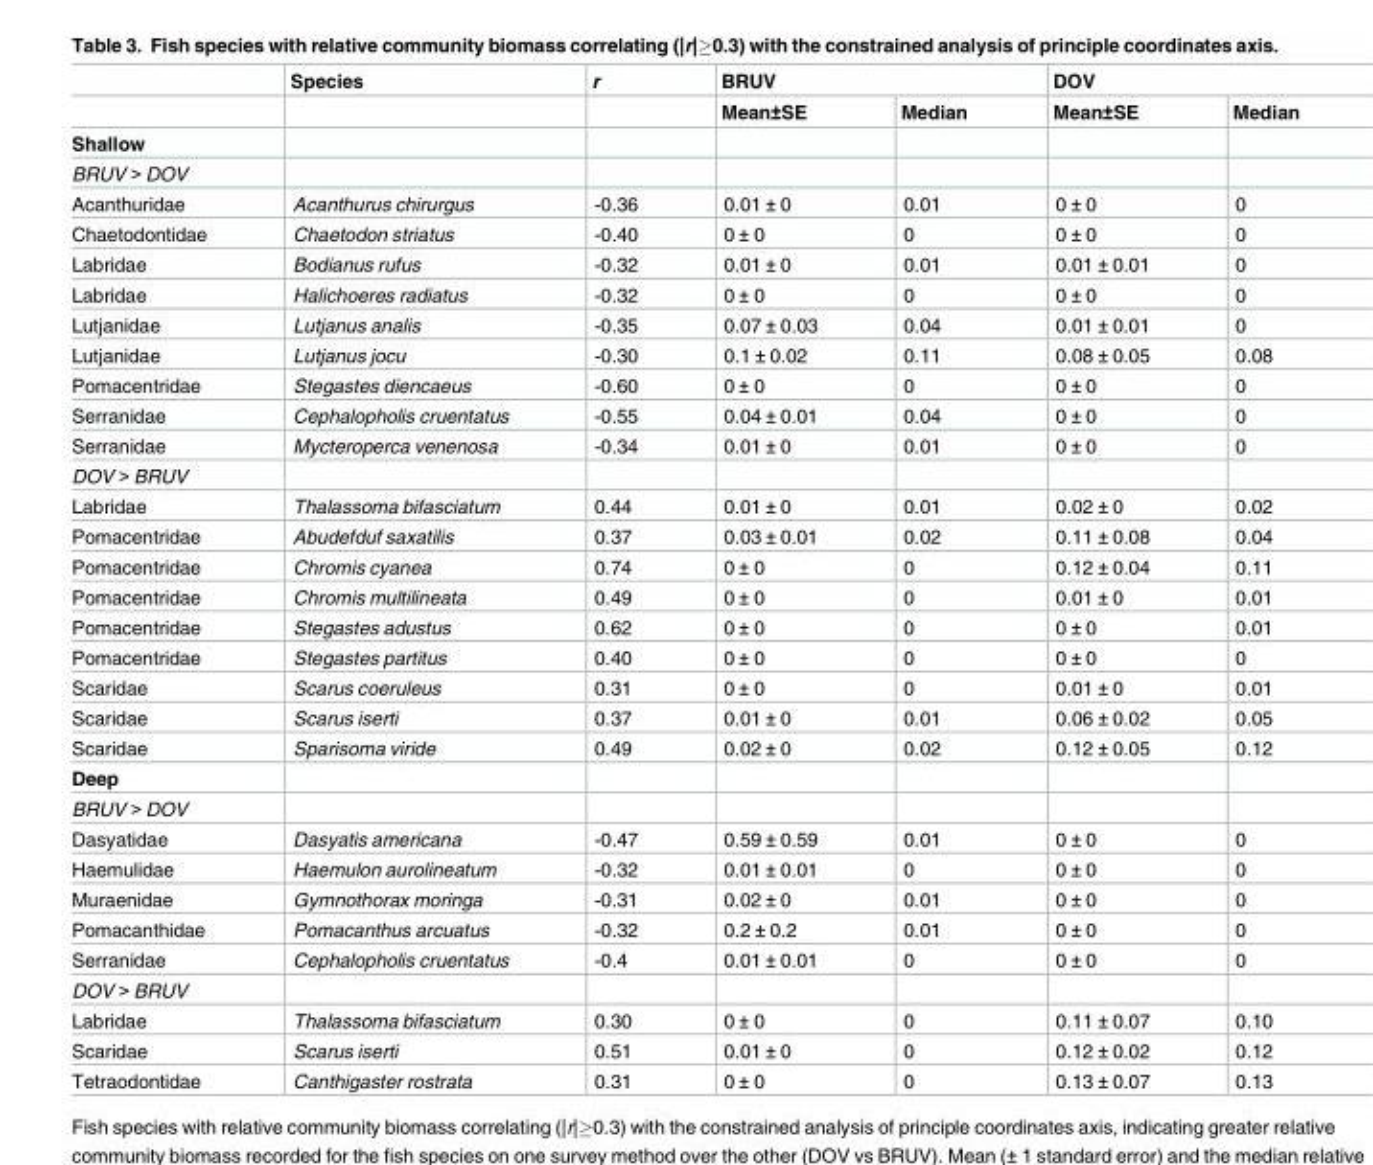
<table><thead><tr><td rowspan="2"></td><td rowspan="2">Species</td><td rowspan="2">r</td><td colspan="2">BRUV</td><td colspan="2">DOV</td></tr><tr><td>Mean±SE</td><td>Median</td><td>Mean±SE</td><td>Median</td></tr></thead><tbody><tr><td colspan="7">Shallow</td></tr><tr><td colspan="7">BRUV &gt; DOV</td></tr><tr><td>Acanthuridae</td><td>Acanthurus chirurgus</td><td>-0.36</td><td>0.01 ± 0</td><td>0.01</td><td>0 ± 0</td><td>0</td></tr><tr><td>Chaetodontidae</td><td>Chaetodon striatus</td><td>-0.40</td><td>0 ± 0</td><td>0</td><td>0 ± 0</td><td>0</td></tr><tr><td>Labridae</td><td>Bodianus rufus</td><td>-0.32</td><td>0.01 ± 0</td><td>0.01</td><td>0.01 ± 0.01</td><td>0</td></tr><tr><td>Labridae</td><td>Halichoeres radiatus</td><td>-0.32</td><td>0 ± 0</td><td>0</td><td>0 ± 0</td><td>0</td></tr><tr><td>Lutjanidae</td><td>Lutjanus analis</td><td>-0.35</td><td>0.07 ± 0.03</td><td>0.04</td><td>0.01 ± 0.01</td><td>0</td></tr><tr><td>Lutjanidae</td><td>Lutjanus jocu</td><td>-0.30</td><td>0.1 ± 0.02</td><td>0.11</td><td>0.08 ± 0.05</td><td>0.08</td></tr><tr><td>Pomacentridae</td><td>Stegastes diencaeus</td><td>-0.60</td><td>0 ± 0</td><td>0</td><td>0 ± 0</td><td>0</td></tr><tr><td>Serranidae</td><td>Cephalopholis cruentatus</td><td>-0.55</td><td>0.04 ± 0.01</td><td>0.04</td><td>0 ± 0</td><td>0</td></tr><tr><td>Serranidae</td><td>Mycteroperca venenosa</td><td>-0.34</td><td>0.01 ± 0</td><td>0.01</td><td>0 ± 0</td><td>0</td></tr><tr><td colspan="7">DOV &gt; BRUV</td></tr><tr><td>Labridae</td><td>Thalassoma bifasciatum</td><td>0.44</td><td>0.01 ± 0</td><td>0.01</td><td>0.02 ± 0</td><td>0.02</td></tr><tr><td>Pomacentridae</td><td>Abudefduf saxatilis</td><td>0.37</td><td>0.03 ± 0.01</td><td>0.02</td><td>0.11 ± 0.08</td><td>0.04</td></tr><tr><td>Pomacentridae</td><td>Chromis cyanea</td><td>0.74</td><td>0 ± 0</td><td>0</td><td>0.12 ± 0.04</td><td>0.11</td></tr><tr><td>Pomacentridae</td><td>Chromis multilineata</td><td>0.49</td><td>0 ± 0</td><td>0</td><td>0.01 ± 0</td><td>0.01</td></tr><tr><td>Pomacentridae</td><td>Stegastes adustus</td><td>0.62</td><td>0 ± 0</td><td>0</td><td>0 ± 0</td><td>0.01</td></tr><tr><td>Pomacentridae</td><td>Stegastes partitus</td><td>0.40</td><td>0 ± 0</td><td>0</td><td>0 ± 0</td><td>0</td></tr><tr><td>Scaridae</td><td>Scarus coeruleus</td><td>0.31</td><td>0 ± 0</td><td>0</td><td>0.01 ± 0</td><td>0.01</td></tr><tr><td>Scaridae</td><td>Scarus iserti</td><td>0.37</td><td>0.01 ± 0</td><td>0.01</td><td>0.06 ± 0.02</td><td>0.05</td></tr><tr><td>Scaridae</td><td>Sparisoma viride</td><td>0.49</td><td>0.02 ± 0</td><td>0.02</td><td>0.12 ± 0.05</td><td>0.12</td></tr><tr><td colspan="7">Deep</td></tr><tr><td colspan="7">BRUV &gt; DOV</td></tr><tr><td>Dasyatidae</td><td>Dasyatis americana</td><td>-0.47</td><td>0.59 ± 0.59</td><td>0.01</td><td>0 ± 0</td><td>0</td></tr><tr><td>Haemulidae</td><td>Haemulon aurolineatum</td><td>-0.32</td><td>0.01 ± 0.01</td><td>0</td><td>0 ± 0</td><td>0</td></tr><tr><td>Muraenidae</td><td>Gymnothorax moringa</td><td>-0.31</td><td>0.02 ± 0</td><td>0.01</td><td>0 ± 0</td><td>0</td></tr><tr><td>Pomacanthidae</td><td>Pomacanthus arcuatus</td><td>-0.32</td><td>0.2 ± 0.2</td><td>0.01</td><td>0 ± 0</td><td>0</td></tr><tr><td>Serranidae</td><td>Cephalopholis cruentatus</td><td>-0.4</td><td>0.01 ± 0.01</td><td>0</td><td>0 ± 0</td><td>0</td></tr><tr><td colspan="7">DOV &gt; BRUV</td></tr><tr><td>Labridae</td><td>Thalassoma bifasciatum</td><td>0.30</td><td>0 ± 0</td><td>0</td><td>0.11 ± 0.07</td><td>0.10</td></tr><tr><td>Scaridae</td><td>Scarus iserti</td><td>0.51</td><td>0.01 ± 0</td><td>0</td><td>0.12 ± 0.02</td><td>0.12</td></tr><tr><td>Tetraodontidae</td><td>Canthigaster rostrata</td><td>0.31</td><td>0 ± 0</td><td>0</td><td>0.13 ± 0.07</td><td>0.13</td></tr></tbody></table>